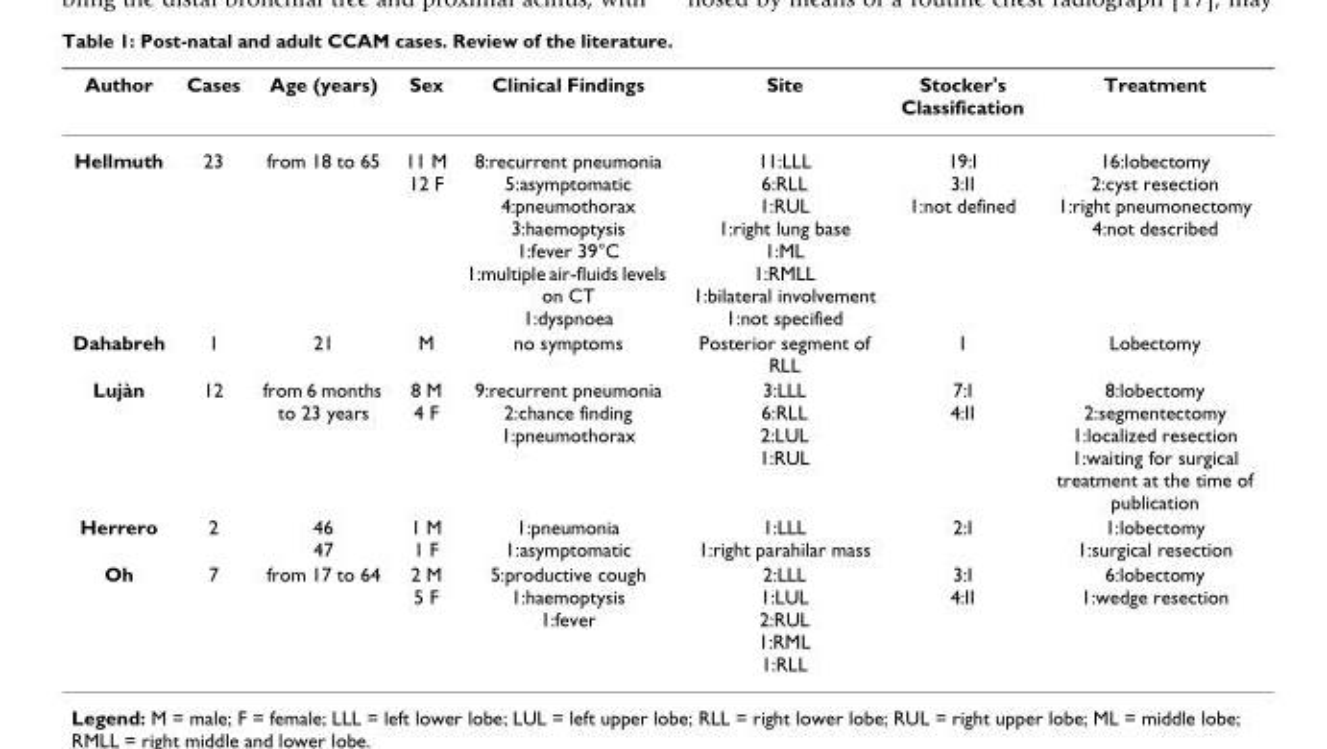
<table><thead><tr><td>Author</td><td>Cases</td><td>Age (years)</td><td>Sex</td><td>Clinical Findings</td><td>Site</td><td>Stocker&#x27;s Classification</td><td>Treatment</td></tr></thead><tbody><tr><td>Hellmuth</td><td>23</td><td>from 18 to 65</td><td>11 M 12 F</td><td>8:recurrent pneumonia 5:asymptomatic 4:pneumothorax 3:haemoptysis 1:fever 39°C 1:multiple air-fluids levels on CT 1:dyspnoea</td><td>11:LLL 6:RLL 1:RUL 1:right lung base 1:ML 1:RMLL 1:bilateral involvement 1:not specified</td><td>19:I 3:II 1:not defined</td><td>16:lobectomy 2:cyst resection 1:right pneumonectomy 4:not described</td></tr><tr><td>Dahabreh</td><td>1</td><td>21</td><td>M</td><td>no symptoms</td><td>Posterior segment of RLL</td><td>I</td><td>Lobectomy</td></tr><tr><td>Lujàn</td><td>12</td><td>from 6 months to 23 years</td><td>8 M 4 F</td><td>9:recurrent pneumonia 2:chance finding 1:pneumothorax</td><td>3:LLL 6:RLL 2:LUL 1:RUL</td><td>7:I 4:II</td><td>8:lobectomy 2:segmentectomy 1:localized resection 1:waiting for surgical treatment at the time of publication</td></tr><tr><td>Herrero</td><td>2</td><td>46 47</td><td>1 M 1 F</td><td>1:pneumonia 1:asymptomatic</td><td>1:LLL 1:right parahilar mass</td><td>2:I</td><td>1:lobectomy 1:surgical resection</td></tr><tr><td>Oh</td><td>7</td><td>from 17 to 64</td><td>2 M 5 F</td><td>5:productive cough 1:haemoptysis 1:fever</td><td>2:LLL 1:LUL 2:RUL 1:RML 1:RLL</td><td>3:I 4:II</td><td>6:lobectomy 1:wedge resection</td></tr></tbody></table>